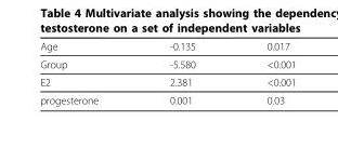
<table><thead><tr><td>Age</td><td>-0.135</td><td>0.017</td></tr></thead><tbody><tr><td>Group</td><td>-5.580</td><td>&lt;0.001</td></tr><tr><td>E2</td><td>2.381</td><td>&lt;0.001</td></tr><tr><td>progesterone</td><td>0.001</td><td>0.03</td></tr></tbody></table>